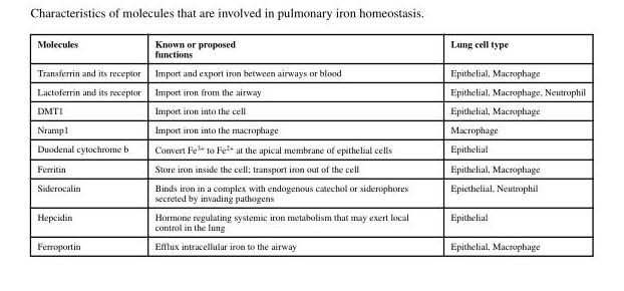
<table><thead><tr><td>Molecules</td><td>Known or proposed functions</td><td>Lung cell type</td></tr></thead><tbody><tr><td>Transferrin and its receptor</td><td>Import and export iron between airways or blood</td><td>Epithelial, Macrophage</td></tr><tr><td>Lactoferrin and its receptor</td><td>Import iron from the airway</td><td>Epithelial, Macrophage, Neutrophil</td></tr><tr><td>DMT1</td><td>Import iron into the cell</td><td>Epithelial, Macrophage</td></tr><tr><td>Nramp1</td><td>Import iron into the macrophage</td><td>Macrophage</td></tr><tr><td>Duodenal cytochrome b</td><td>Convert Fe<sup>3+</sup> to Fe<sup>2+</sup> at the apical membrane of epithelial cells</td><td>Epithelial</td></tr><tr><td>Ferritin</td><td>Store iron inside the cell; transport iron out of the cell</td><td>Epithelial, Macrophage</td></tr><tr><td>Siderocalin</td><td>Binds iron in a complex with endogenous catechol or siderophores secreted by invading pathogens</td><td>Epiethelial, Neutrophil</td></tr><tr><td>Hepcidin</td><td>Hormone regulating systemic iron metabolism that may exert local control in the lung</td><td>Epithelial</td></tr><tr><td>Ferroportin</td><td>Efflux intracellular iron to the airway</td><td>Epithelial, Macrophage</td></tr></tbody></table>